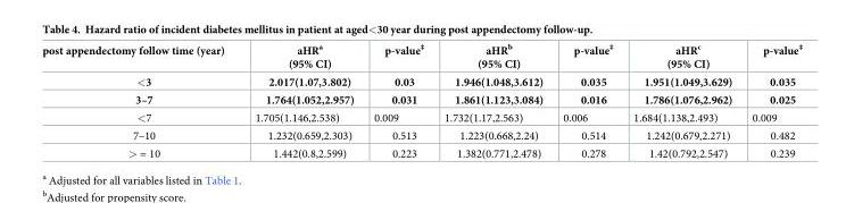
<table><thead><tr><td>post appendectomy follow time (year)</td><td>aHR<sup>a</sup> (95% CI)</td><td>p-value<sup>‡</sup></td><td>aHR<sup>b</sup> (95% CI)</td><td>p-value<sup>‡</sup></td><td>aHR<sup>c</sup> (95% CI)</td><td>p-value<sup>‡</sup></td></tr></thead><tbody><tr><td>&lt;3</td><td>2.017(1.07,3.802)</td><td>0.03</td><td>1.946(1.048,3.612)</td><td>0.035</td><td>1.951(1.049,3.629)</td><td>0.035</td></tr><tr><td>3–7</td><td>1.764(1.052,2.957)</td><td>0.031</td><td>1.861(1.123,3.084)</td><td>0.016</td><td>1.786(1.076,2.962)</td><td>0.025</td></tr><tr><td>&lt;7</td><td>1.705(1.146,2.538)</td><td>0.009</td><td>1.732(1.17,2.563)</td><td>0.006</td><td>1.684(1.138,2.493)</td><td>0.009</td></tr><tr><td>7–10</td><td>1.232(0.659,2.303)</td><td>0.513</td><td>1.223(0.668,2.24)</td><td>0.514</td><td>1.242(0.679,2.271)</td><td>0.482</td></tr><tr><td>&gt; = 10</td><td>1.442(0.8,2.599)</td><td>0.223</td><td>1.382(0.771,2.478)</td><td>0.278</td><td>1.42(0.792,2.547)</td><td>0.239</td></tr></tbody></table>